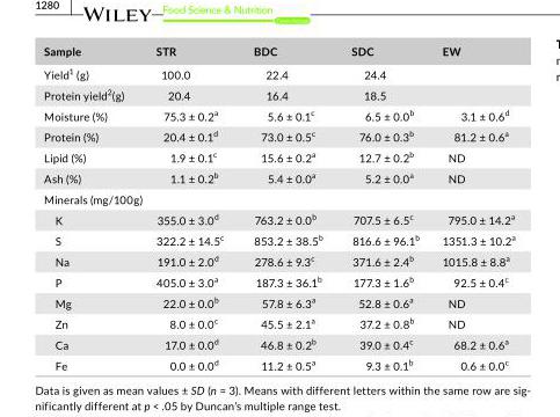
<table><thead><tr><td>Sample</td><td>STR</td><td>BDC</td><td>SDC</td><td>EW</td></tr></thead><tbody><tr><td>Yield1 (g)</td><td>100.0</td><td>22.4</td><td>24.4</td><td></td></tr><tr><td>Protein yield2(g)</td><td>20.4</td><td>16.4</td><td>18.5</td><td></td></tr><tr><td>Moisture (%)</td><td>75.3 ± 0.2<sup>a</sup></td><td>5.6 ± 0.1<sup>c</sup></td><td>6.5 ± 0.0<sup>b</sup></td><td>3.1 ± 0.6<sup>d</sup></td></tr><tr><td>Protein (%)</td><td>20.4 ± 0.1<sup>d</sup></td><td>73.0 ± 0.5<sup>c</sup></td><td>76.0 ± 0.3<sup>b</sup></td><td>81.2 ± 0.6<sup>a</sup></td></tr><tr><td>Lipid (%)</td><td>1.9 ± 0.1<sup>c</sup></td><td>15.6 ± 0.2<sup>a</sup></td><td>12.7 ± 0.2<sup>b</sup></td><td>ND</td></tr><tr><td>Ash (%)</td><td>1.1 ± 0.2<sup>b</sup></td><td>5.4 ± 0.0<sup>a</sup></td><td>5.2 ± 0.0<sup>a</sup></td><td>ND</td></tr><tr><td colspan="5">Minerals (mg/100g)</td></tr><tr><td>K</td><td>355.0 ± 3.0<sup>d</sup></td><td>763.2 ± 0.0<sup>b</sup></td><td>707.5 ± 6.5<sup>c</sup></td><td>795.0 ± 14.2<sup>a</sup></td></tr><tr><td>S</td><td>322.2 ± 14.5<sup>c</sup></td><td>853.2 ± 38.5<sup>b</sup></td><td>816.6 ± 96.1<sup>b</sup></td><td>1351.3 ± 10.2<sup>a</sup></td></tr><tr><td>Na</td><td>191.0 ± 2.0<sup>d</sup></td><td>278.6 ± 9.3<sup>c</sup></td><td>371.6 ± 2.4<sup>b</sup></td><td>1015.8 ± 8.8<sup>a</sup></td></tr><tr><td>P</td><td>405.0 ± 3.0<sup>a</sup></td><td>187.3 ± 36.1<sup>b</sup></td><td>177.3 ± 1.6<sup>b</sup></td><td>92.5 ± 0.4<sup>c</sup></td></tr><tr><td>Mg</td><td>22.0 ± 0.0<sup>b</sup></td><td>57.8 ± 6.3<sup>a</sup></td><td>52.8 ± 0.6<sup>a</sup></td><td>ND</td></tr><tr><td>Zn</td><td>8.0 ± 0.0<sup>c</sup></td><td>45.5 ± 2.1<sup>a</sup></td><td>37.2 ± 0.8<sup>b</sup></td><td>ND</td></tr><tr><td>Ca</td><td>17.0 ± 0.0<sup>d</sup></td><td>46.8 ± 0.2<sup>b</sup></td><td>39.0 ± 0.4<sup>c</sup></td><td>68.2 ± 0.6<sup>a</sup></td></tr><tr><td>Fe</td><td>0.0 ± 0.0<sup>d</sup></td><td>11.2 ± 0.5<sup>a</sup></td><td>9.3 ± 0.1<sup>b</sup></td><td>0.6 ± 0.0<sup>c</sup></td></tr></tbody></table>